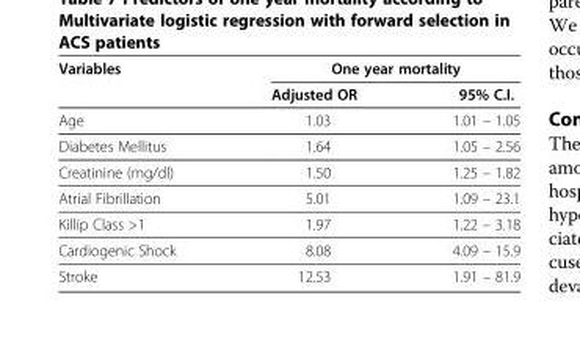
<table><thead><tr><td rowspan="2">Variables</td><td colspan="2">One year mortality</td></tr><tr><td>Adjusted OR</td><td>95% C.I.</td></tr></thead><tbody><tr><td>Age</td><td>1.03</td><td>1.01 – 1.05</td></tr><tr><td>Diabetes Mellitus</td><td>1.64</td><td>1.05 – 2.56</td></tr><tr><td>Creatinine (mg/dl)</td><td>1.50</td><td>1.25 – 1.82</td></tr><tr><td>Atrial Fibrillation</td><td>5.01</td><td>1.09 – 23.1</td></tr><tr><td>Killip Class &gt;1</td><td>1.97</td><td>1.22 – 3.18</td></tr><tr><td>Cardiogenic Shock</td><td>8.08</td><td>4.09 – 15.9</td></tr><tr><td>Stroke</td><td>12.53</td><td>1.91 – 81.9</td></tr></tbody></table>